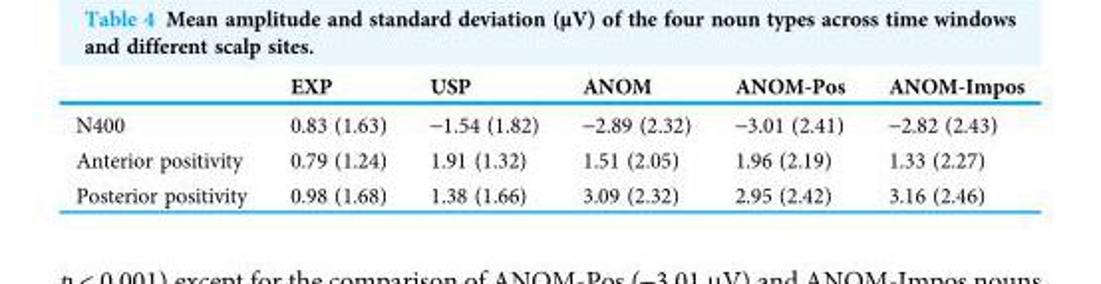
<table><thead><tr><td></td><td>EXP</td><td>USP</td><td>ANOM</td><td>ANOM-Pos</td><td>ANOM-Impos</td></tr></thead><tbody><tr><td>N400</td><td>0.83 (1.63)</td><td>-1.54 (1.82)</td><td>-2.89 (2.32)</td><td>-3.01 (2.41)</td><td>-2.82 (2.43)</td></tr><tr><td>Anterior positivity</td><td>0.79 (1.24)</td><td>1.91 (1.32)</td><td>1.51 (2.05)</td><td>1.96 (2.19)</td><td>1.33 (2.27)</td></tr><tr><td>Posterior positivity</td><td>0.98 (1.68)</td><td>1.38 (1.66)</td><td>3.09 (2.32)</td><td>2.95 (2.42)</td><td>3.16 (2.46)</td></tr></tbody></table>